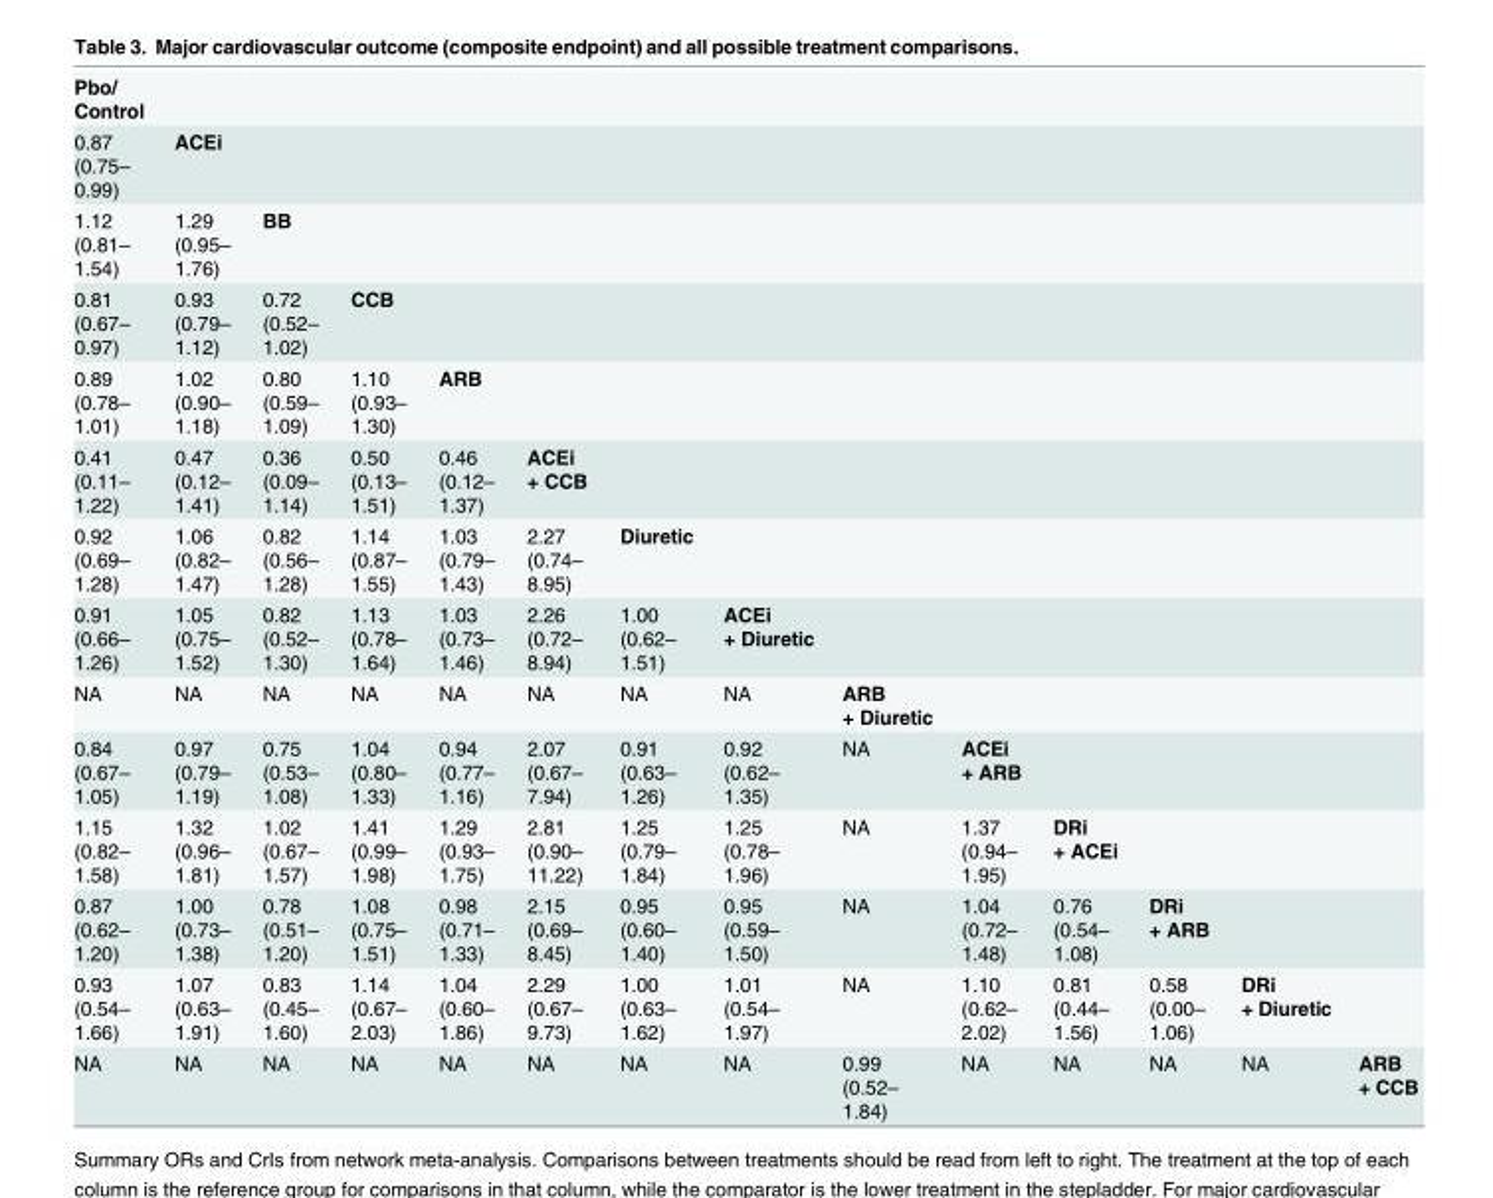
<table><tbody><tr><td colspan="14">Pbo/ Control</td></tr><tr><td>0.87 (0.75– 0.99)</td><td>ACEi</td><td></td><td></td><td></td><td></td><td></td><td></td><td></td><td></td><td></td><td></td><td></td><td></td></tr><tr><td>1.12 (0.81– 1.54)</td><td>1.29 (0.95– 1.76)</td><td>BB</td><td></td><td></td><td></td><td></td><td></td><td></td><td></td><td></td><td></td><td></td><td></td></tr><tr><td>0.81 (0.67– 0.97)</td><td>0.93 (0.79– 1.12)</td><td>0.72 (0.52– 1.02)</td><td>CCB</td><td></td><td></td><td></td><td></td><td></td><td></td><td></td><td></td><td></td><td></td></tr><tr><td>0.89 (0.78– 1.01)</td><td>1.02 (0.90– 1.18)</td><td>0.80 (0.59– 1.09)</td><td>1.10 (0.93– 1.30)</td><td>ARB</td><td></td><td></td><td></td><td></td><td></td><td></td><td></td><td></td><td></td></tr><tr><td>0.41 (0.11– 1.22)</td><td>0.47 (0.12– 1.41)</td><td>0.36 (0.09– 1.14)</td><td>0.50 (0.13– 1.51)</td><td>0.46 (0.12– 1.37)</td><td>ACEi + CCB</td><td></td><td></td><td></td><td></td><td></td><td></td><td></td><td></td></tr><tr><td>0.92 (0.69– 1.28)</td><td>1.06 (0.82– 1.47)</td><td>0.82 (0.56– 1.28)</td><td>1.14 (0.87– 1.55)</td><td>1.03 (0.79– 1.43)</td><td>2.27 (0.74– 8.95)</td><td>Diuretic</td><td></td><td></td><td></td><td></td><td></td><td></td><td></td></tr><tr><td>0.91 (0.66– 1.26)</td><td>1.05 (0.75– 1.52)</td><td>0.82 (0.52– 1.30)</td><td>1.13 (0.78– 1.64)</td><td>1.03 (0.73– 1.46)</td><td>2.26 (0.72– 8.94)</td><td>1.00 (0.62– 1.51)</td><td>ACEi + Diuretic</td><td></td><td></td><td></td><td></td><td></td><td></td></tr><tr><td>NA</td><td>NA</td><td>NA</td><td>NA</td><td>NA</td><td>NA</td><td>NA</td><td>NA</td><td>ARB + Diuretic</td><td></td><td></td><td></td><td></td><td></td></tr><tr><td>0.84 (0.67– 1.05)</td><td>0.97 (0.79– 1.19)</td><td>0.75 (0.53– 1.08)</td><td>1.04 (0.80– 1.33)</td><td>0.94 (0.77– 1.16)</td><td>2.07 (0.67– 7.94)</td><td>0.91 (0.63– 1.26)</td><td>0.92 (0.62– 1.35)</td><td>NA</td><td>ACEi + ARB</td><td></td><td></td><td></td><td></td></tr><tr><td>1.15 (0.82– 1.58)</td><td>1.32 (0.96– 1.81)</td><td>1.02 (0.67– 1.57)</td><td>1.41 (0.99– 1.98)</td><td>1.29 (0.93– 1.75)</td><td>2.81 (0.90– 11.22)</td><td>1.25 (0.79– 1.84)</td><td>1.25 (0.78– 1.96)</td><td>NA</td><td>1.37 (0.94– 1.95)</td><td>DRi + ACEi</td><td></td><td></td><td></td></tr><tr><td>0.87 (0.62– 1.20)</td><td>1.00 (0.73– 1.38)</td><td>0.78 (0.51– 1.20)</td><td>1.08 (0.75– 1.51)</td><td>0.98 (0.71– 1.33)</td><td>2.15 (0.69– 8.45)</td><td>0.95 (0.60– 1.40)</td><td>0.95 (0.59– 1.50)</td><td>NA</td><td>1.04 (0.72– 1.48)</td><td>0.76 (0.54– 1.08)</td><td>DRi + ARB</td><td></td><td></td></tr><tr><td>0.93 (0.54– 1.66)</td><td>1.07 (0.63– 1.91)</td><td>0.83 (0.45– 1.60)</td><td>1.14 (0.67– 2.03)</td><td>1.04 (0.60– 1.86)</td><td>2.29 (0.67– 9.73)</td><td>1.00 (0.63– 1.62)</td><td>1.01 (0.54– 1.97)</td><td>NA</td><td>1.10 (0.62– 2.02)</td><td>0.81 (0.44– 1.56)</td><td>0.58 (0.00– 1.06)</td><td>DRi + Diuretic</td><td></td></tr><tr><td>NA</td><td>NA</td><td>NA</td><td>NA</td><td>NA</td><td>NA</td><td>NA</td><td>NA</td><td>0.99 (0.52– 1.84)</td><td>NA</td><td>NA</td><td>NA</td><td>NA</td><td>ARB + CCB</td></tr></tbody></table>